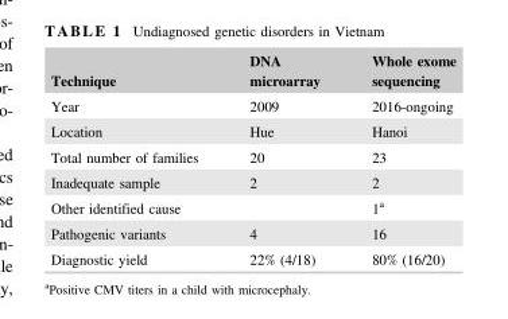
<table><thead><tr><td>Technique</td><td>DNA microarray</td><td>Whole exome sequencing</td></tr></thead><tbody><tr><td>Year</td><td>2009</td><td>2016-ongoing</td></tr><tr><td>Location</td><td>Hue</td><td>Hanoi</td></tr><tr><td>Total number of families</td><td>20</td><td>23</td></tr><tr><td>Inadequate sample</td><td>2</td><td>2</td></tr><tr><td>Other identified cause</td><td></td><td>1<sup>a</sup></td></tr><tr><td>Pathogenic variants</td><td>4</td><td>16</td></tr><tr><td>Diagnostic yield</td><td>22% (4/18)</td><td>80% (16/20)</td></tr></tbody></table>